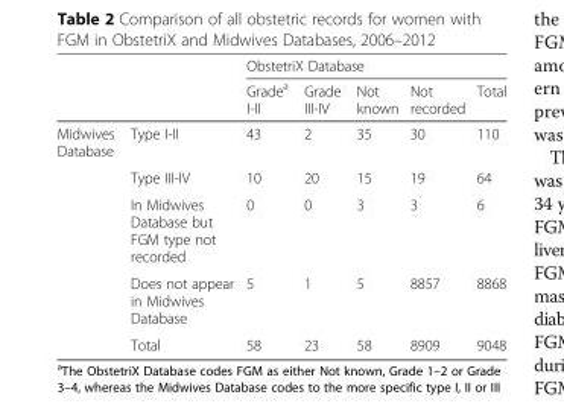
<table><thead><tr><td rowspan="2"></td><td rowspan="2"></td><td colspan="5">ObstetriX Database</td></tr><tr><td>Grade<sup>a</sup> I-II</td><td>Grade III-IV</td><td>Not known</td><td>Not recorded</td><td>Total</td></tr></thead><tbody><tr><td rowspan="5">Midwives Database</td><td>Type I-II</td><td>43</td><td>2</td><td>35</td><td>30</td><td>110</td></tr><tr><td>Type III-IV</td><td>10</td><td>20</td><td>15</td><td>19</td><td>64</td></tr><tr><td>In Midwives Database but FGM type not recorded</td><td>0</td><td>0</td><td>3</td><td>3</td><td>6</td></tr><tr><td>Does not appear in Midwives Database</td><td>5</td><td>1</td><td>5</td><td>8857</td><td>8868</td></tr><tr><td>Total</td><td>58</td><td>23</td><td>58</td><td>8909</td><td>9048</td></tr></tbody></table>